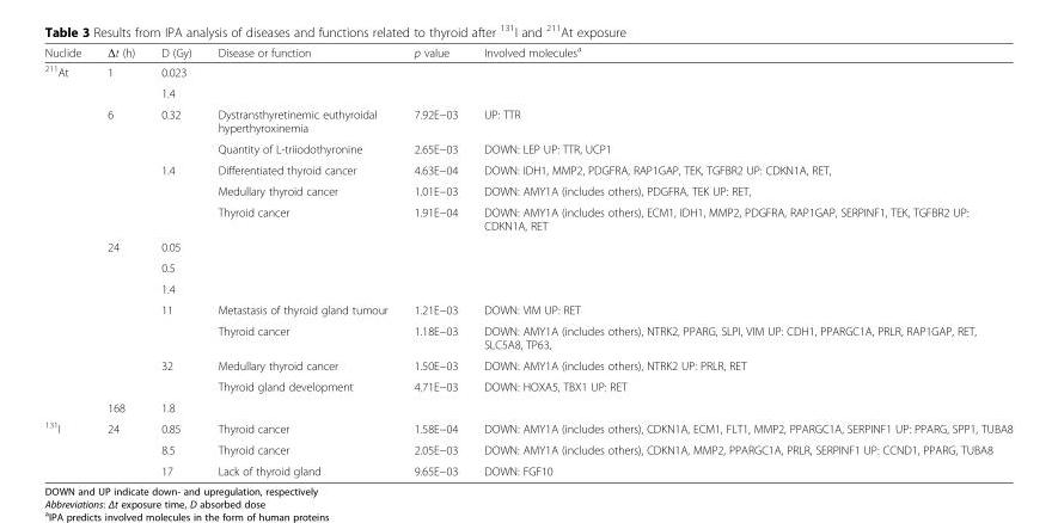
<table><thead><tr><td>Nuclide</td><td>Δt (h)</td><td>D (Gy)</td><td>Disease or function</td><td>p value</td><td>Involved molecules<sup>a</sup></td></tr></thead><tbody><tr><td rowspan="15"><sup>211</sup>At</td><td>1</td><td>0.023</td><td></td><td></td><td></td></tr><tr><td></td><td>1.4</td><td></td><td></td><td></td></tr><tr><td>6</td><td>0.32</td><td>Dystransthyretinemic euthyroidal hyperthyroxinemia</td><td>7.92E−03</td><td>UP: TTR</td></tr><tr><td></td><td></td><td>Quantity of L-triiodothyronine</td><td>2.65E−03</td><td>DOWN: LEP UP: TTR, UCP1</td></tr><tr><td></td><td>1.4</td><td>Differentiated thyroid cancer</td><td>4.63E−04</td><td>DOWN: IDH1, MMP2, PDGFRA, RAP1GAP, TEK, TGFBR2 UP: CDKN1A, RET,</td></tr><tr><td></td><td></td><td>Medullary thyroid cancer</td><td>1.01E−03</td><td>DOWN: AMY1A (includes others), PDGFRA, TEK UP: RET,</td></tr><tr><td></td><td></td><td>Thyroid cancer</td><td>1.91E−04</td><td>DOWN: AMY1A (includes others), ECM1, IDH1, MMP2, PDGFRA, RAP1GAP, SERPINF1, TEK, TGFBR2 UP: CDKN1A, RET</td></tr><tr><td>24</td><td>0.05</td><td></td><td></td><td></td></tr><tr><td></td><td>0.5</td><td></td><td></td><td></td></tr><tr><td></td><td>1.4</td><td></td><td></td><td></td></tr><tr><td></td><td>11</td><td>Metastasis of thyroid gland tumour</td><td>1.21E−03</td><td>DOWN: VIM UP: RET</td></tr><tr><td></td><td></td><td>Thyroid cancer</td><td>1.18E−03</td><td>DOWN: AMY1A (includes others), NTRK2, PPARG, SLPI, VIM UP: CDH1, PPARGC1A, PRLR, RAP1GAP, RET, SLC5A8, TP63,</td></tr><tr><td></td><td>32</td><td>Medullary thyroid cancer</td><td>1.50E−03</td><td>DOWN: AMY1A (includes others), NTRK2 UP: PRLR, RET</td></tr><tr><td></td><td></td><td>Thyroid gland development</td><td>4.71E−03</td><td>DOWN: HOXA5, TBX1 UP: RET</td></tr><tr><td>168</td><td>1.8</td><td></td><td></td><td></td></tr><tr><td rowspan="3"><sup>131</sup>I</td><td>24</td><td>0.85</td><td>Thyroid cancer</td><td>1.58E−04</td><td>DOWN: AMY1A (includes others), CDKN1A, ECM1, FLT1, MMP2, PPARGC1A, SERPINF1 UP: PPARG, SPP1, TUBA8</td></tr><tr><td></td><td>8.5</td><td>Thyroid cancer</td><td>2.05E−03</td><td>DOWN: AMY1A (includes others), CDKN1A, MMP2, PPARGC1A, PRLR, SERPINF1 UP: CCND1, PPARG, TUBA8</td></tr><tr><td></td><td>17</td><td>Lack of thyroid gland</td><td>9.65E−03</td><td>DOWN: FGF10</td></tr></tbody></table>